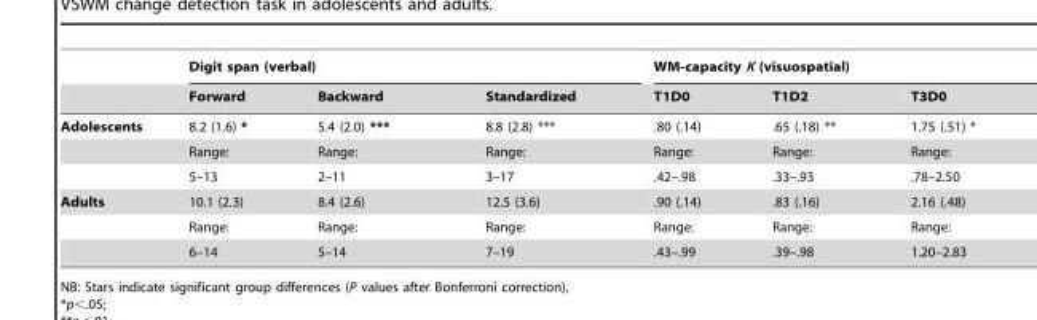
<table><thead><tr><td rowspan="2"></td><td colspan="3">Digit span (verbal)</td><td colspan="3">WM-capacity K (visuospatial)</td></tr><tr><td>Forward</td><td>Backward</td><td>Standardized</td><td>T1D0</td><td>T1D2</td><td>T3D0</td></tr></thead><tbody><tr><td rowspan="3">Adolescents</td><td>8.2 (1.6) *</td><td>5.4 (2.0) ***</td><td>8.8 (2.8) ***</td><td>.80 (.14)</td><td>.65 (.18) **</td><td>1.75 (.51) *</td></tr><tr><td>Range:</td><td>Range:</td><td>Range:</td><td>Range:</td><td>Range:</td><td>Range:</td></tr><tr><td>5–13</td><td>2–11</td><td>3–17</td><td>.42–.98</td><td>.33–.93</td><td>.78–2.50</td></tr><tr><td rowspan="3">Adults</td><td>10.1 (2.3)</td><td>8.4 (2.6)</td><td>12.5 (3.6)</td><td>.90 (.14)</td><td>.83 (.16)</td><td>2.16 (.48)</td></tr><tr><td>Range:</td><td>Range:</td><td>Range:</td><td>Range:</td><td>Range:</td><td>Range:</td></tr><tr><td>6–14</td><td>5–14</td><td>7–19</td><td>.43–.99</td><td>.39–.98</td><td>1.20–2.83</td></tr></tbody></table>